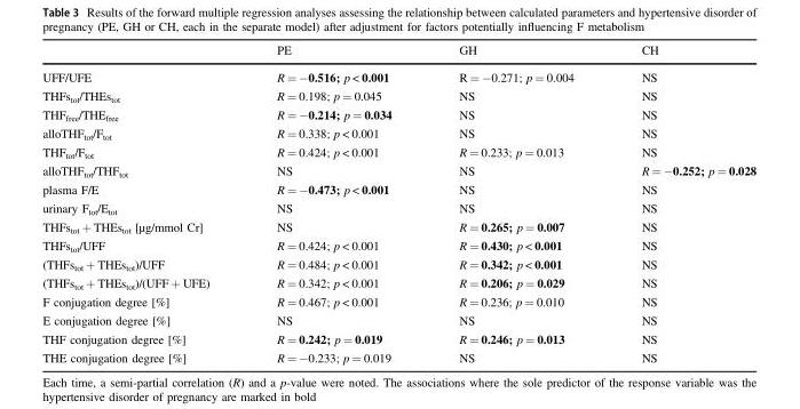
<table><thead><tr><td></td><td>PE</td><td>GH</td><td>CH</td></tr></thead><tbody><tr><td>UFF/UFE</td><td>R = −0.516; p &lt; 0.001</td><td>R = −0.271; p = 0.004</td><td>NS</td></tr><tr><td>THFs<sub>tot</sub>/THEs<sub>tot</sub></td><td>R = 0.198; p = 0.045</td><td>NS</td><td>NS</td></tr><tr><td>THF<sub>free</sub>/THE<sub>free</sub></td><td>R = −0.214; p = 0.034</td><td>NS</td><td>NS</td></tr><tr><td>alloTHF<sub>tot</sub>/F<sub>tot</sub></td><td>R = 0.338; p &lt; 0.001</td><td>NS</td><td>NS</td></tr><tr><td>THF<sub>tot</sub>/F<sub>tot</sub></td><td>R = 0.424; p &lt; 0.001</td><td>R = 0.233; p = 0.013</td><td>NS</td></tr><tr><td>alloTHF<sub>tot</sub>/THF<sub>tot</sub></td><td>NS</td><td>NS</td><td>R = −0.252; p = 0.028</td></tr><tr><td>plasma F/E</td><td>R = −0.473; p &lt; 0.001</td><td>NS</td><td>NS</td></tr><tr><td>urinary F<sub>tot</sub>/E<sub>tot</sub></td><td>NS</td><td>NS</td><td>NS</td></tr><tr><td>THFs<sub>tot</sub> + THEs<sub>tot</sub> [µg/mmol Cr]</td><td>NS</td><td>R = 0.265; p = 0.007</td><td>NS</td></tr><tr><td>THFs<sub>tot</sub>/UFF</td><td>R = 0.424; p &lt; 0.001</td><td>R = 0.430; p &lt; 0.001</td><td>NS</td></tr><tr><td>(THFs<sub>tot</sub> + THEs<sub>tot</sub>)/UFF</td><td>R = 0.484; p &lt; 0.001</td><td>R = 0.342; p &lt; 0.001</td><td>NS</td></tr><tr><td>(THFs<sub>tot</sub> + THEs<sub>tot</sub>)/(UFF + UFE)</td><td>R = 0.342; p &lt; 0.001</td><td>R = 0.206; p = 0.029</td><td>NS</td></tr><tr><td>F conjugation degree [%]</td><td>R = 0.467; p &lt; 0.001</td><td>R = 0.236; p = 0.010</td><td>NS</td></tr><tr><td>E conjugation degree [%]</td><td>NS</td><td>NS</td><td>NS</td></tr><tr><td>THF conjugation degree [%]</td><td>R = 0.242; p = 0.019</td><td>R = 0.246; p = 0.013</td><td>NS</td></tr><tr><td>THE conjugation degree [%]</td><td>R = −0.233; p = 0.019</td><td>NS</td><td>NS</td></tr></tbody></table>